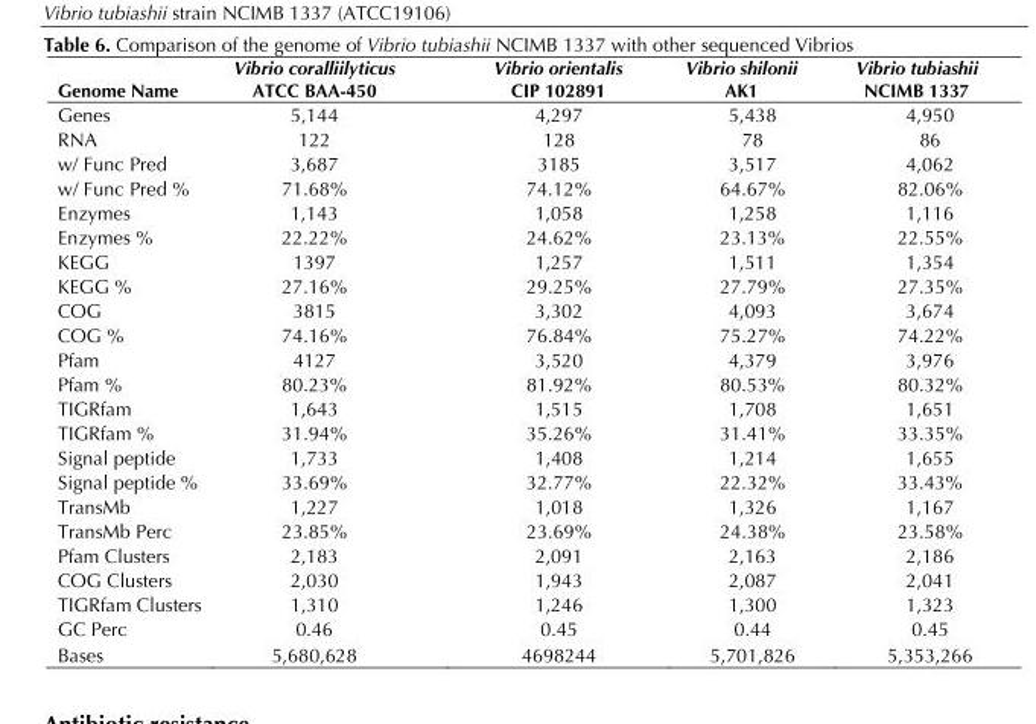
<table><thead><tr><td>Genome Name</td><td>Vibrio coralliilyticus ATCC BAA-450</td><td>Vibrio orientalis CIP 102891</td><td>Vibrio shilonii AK1</td><td>Vibrio tubiashii NCIMB 1337</td></tr></thead><tbody><tr><td>Genes</td><td>5,144</td><td>4,297</td><td>5,438</td><td>4,950</td></tr><tr><td>RNA</td><td>122</td><td>128</td><td>78</td><td>86</td></tr><tr><td>w/ Func Pred</td><td>3,687</td><td>3185</td><td>3,517</td><td>4,062</td></tr><tr><td>w/ Func Pred %</td><td>71.68%</td><td>74.12%</td><td>64.67%</td><td>82.06%</td></tr><tr><td>Enzymes</td><td>1,143</td><td>1,058</td><td>1,258</td><td>1,116</td></tr><tr><td>Enzymes %</td><td>22.22%</td><td>24.62%</td><td>23.13%</td><td>22.55%</td></tr><tr><td>KEGG</td><td>1397</td><td>1,257</td><td>1,511</td><td>1,354</td></tr><tr><td>KEGG %</td><td>27.16%</td><td>29.25%</td><td>27.79%</td><td>27.35%</td></tr><tr><td>COG</td><td>3815</td><td>3,302</td><td>4,093</td><td>3,674</td></tr><tr><td>COG %</td><td>74.16%</td><td>76.84%</td><td>75.27%</td><td>74.22%</td></tr><tr><td>Pfam</td><td>4127</td><td>3,520</td><td>4,379</td><td>3,976</td></tr><tr><td>Pfam %</td><td>80.23%</td><td>81.92%</td><td>80.53%</td><td>80.32%</td></tr><tr><td>TIGRfam</td><td>1,643</td><td>1,515</td><td>1,708</td><td>1,651</td></tr><tr><td>TIGRfam %</td><td>31.94%</td><td>35.26%</td><td>31.41%</td><td>33.35%</td></tr><tr><td>Signal peptide</td><td>1,733</td><td>1,408</td><td>1,214</td><td>1,655</td></tr><tr><td>Signal peptide %</td><td>33.69%</td><td>32.77%</td><td>22.32%</td><td>33.43%</td></tr><tr><td>TransMb</td><td>1,227</td><td>1,018</td><td>1,326</td><td>1,167</td></tr><tr><td>TransMb Perc</td><td>23.85%</td><td>23.69%</td><td>24.38%</td><td>23.58%</td></tr><tr><td>Pfam Clusters</td><td>2,183</td><td>2,091</td><td>2,163</td><td>2,186</td></tr><tr><td>COG Clusters</td><td>2,030</td><td>1,943</td><td>2,087</td><td>2,041</td></tr><tr><td>TIGRfam Clusters</td><td>1,310</td><td>1,246</td><td>1,300</td><td>1,323</td></tr><tr><td>GC Perc</td><td>0.46</td><td>0.45</td><td>0.44</td><td>0.45</td></tr><tr><td>Bases</td><td>5,680,628</td><td>4698244</td><td>5,701,826</td><td>5,353,266</td></tr></tbody></table>